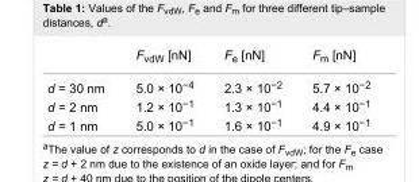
<table><thead><tr><td></td><td>F<sub>vdW</sub> [nN]</td><td>F<sub>e</sub> [nN]</td><td>F<sub>m</sub> [nN]</td></tr></thead><tbody><tr><td>d = 30 nm</td><td>5.0 × 10<sup>−4</sup></td><td>2.3 × 10<sup>−2</sup></td><td>5.7 × 10<sup>−2</sup></td></tr><tr><td>d = 2 nm</td><td>1.2 × 10<sup>−1</sup></td><td>1.3 × 10<sup>−1</sup></td><td>4.4 × 10<sup>−1</sup></td></tr><tr><td>d = 1 nm</td><td>5.0 × 10<sup>−1</sup></td><td>1.6 × 10<sup>−1</sup></td><td>4.9 × 10<sup>−1</sup></td></tr></tbody></table>